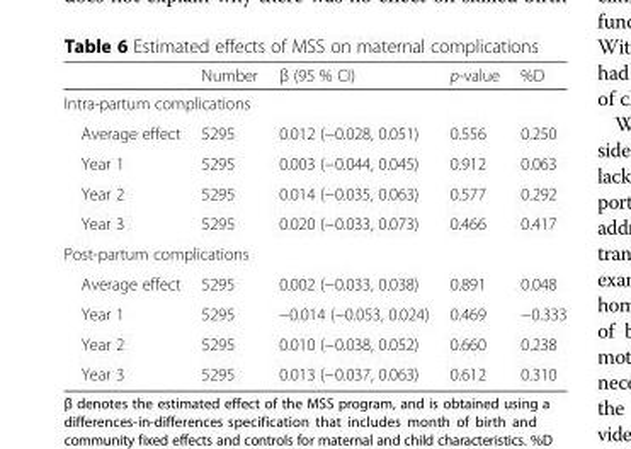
<table><thead><tr><td></td><td>Number</td><td>β (95 % CI)</td><td>p-value</td><td>%D</td></tr></thead><tbody><tr><td colspan="5">Intra-partum complications</td></tr><tr><td>Average effect</td><td>5295</td><td>0.012 (−0.028, 0.051)</td><td>0.556</td><td>0.250</td></tr><tr><td>Year 1</td><td>5295</td><td>0.003 (−0.044, 0.045)</td><td>0.912</td><td>0.063</td></tr><tr><td>Year 2</td><td>5295</td><td>0.014 (−0.035, 0.063)</td><td>0.577</td><td>0.292</td></tr><tr><td>Year 3</td><td>5295</td><td>0.020 (−0.033, 0.073)</td><td>0.466</td><td>0.417</td></tr><tr><td colspan="5">Post-partum complications</td></tr><tr><td>Average effect</td><td>5295</td><td>0.002 (−0.033, 0.038)</td><td>0.891</td><td>0.048</td></tr><tr><td>Year 1</td><td>5295</td><td>−0.014 (−0.053, 0.024)</td><td>0.469</td><td>−0.333</td></tr><tr><td>Year 2</td><td>5295</td><td>0.010 (−0.038, 0.052)</td><td>0.660</td><td>0.238</td></tr><tr><td>Year 3</td><td>5295</td><td>0.013 (−0.037, 0.063)</td><td>0.612</td><td>0.310</td></tr></tbody></table>